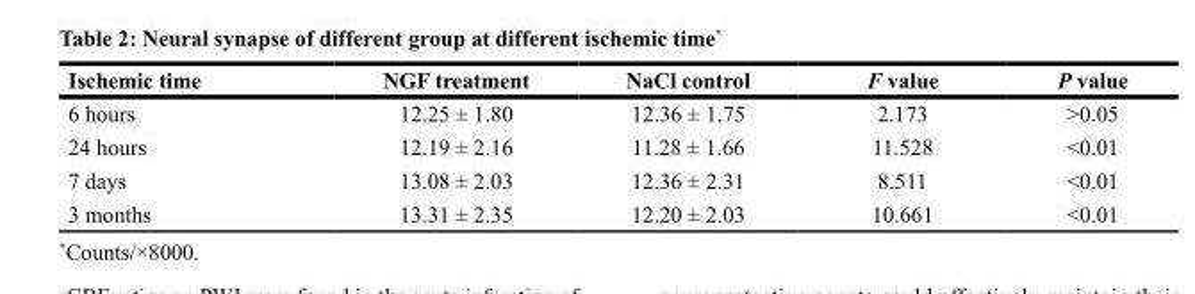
<table><thead><tr><td>Ischemic time</td><td>NGF treatment</td><td>NaCl control</td><td>F value</td><td>P value</td></tr></thead><tbody><tr><td>6 hours</td><td>12.25 ± 1.80</td><td>12.36 ± 1.75</td><td>2.173</td><td>&gt;0.05</td></tr><tr><td>24 hours</td><td>12.19 ± 2.16</td><td>11.28 ± 1.66</td><td>11.528</td><td>&lt;0.01</td></tr><tr><td>7 days</td><td>13.08 ± 2.03</td><td>12.36 ± 2.31</td><td>8.511</td><td>&lt;0.01</td></tr><tr><td>3 months</td><td>13.31 ± 2.35</td><td>12.20 ± 2.03</td><td>10.661</td><td>&lt;0.01</td></tr></tbody></table>